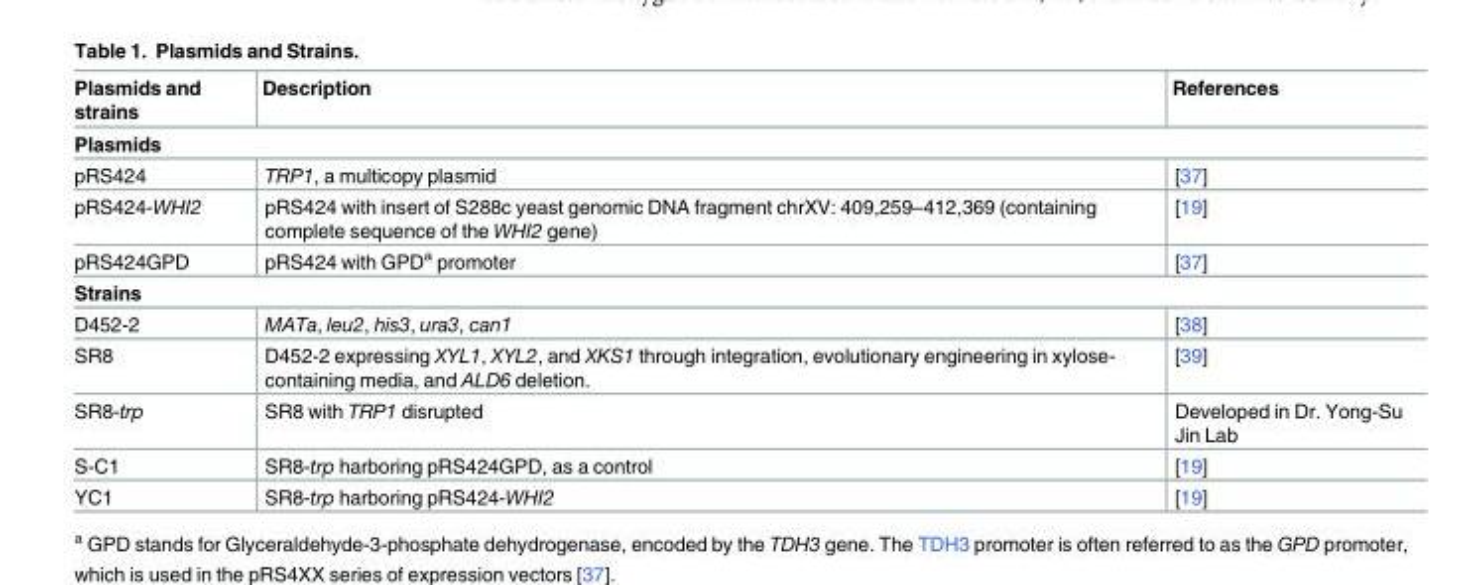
<table><thead><tr><td>Plasmids and strains</td><td>Description</td><td>References</td></tr></thead><tbody><tr><td colspan="3">Plasmids</td></tr><tr><td>pRS424</td><td>TRP1, a multicopy plasmid</td><td>[37]</td></tr><tr><td>pRS424-WHI2</td><td>pRS424 with insert of S288c yeast genomic DNA fragment chrXV: 409,259–412,369 (containing complete sequence of the WHI2 gene)</td><td>[19]</td></tr><tr><td>pRS424GPD</td><td>pRS424 with GPD<sup>a</sup> promoter</td><td>[37]</td></tr><tr><td colspan="3">Strains</td></tr><tr><td>D452-2</td><td>MATa, leu2, his3, ura3, can1</td><td>[38]</td></tr><tr><td>SR8</td><td>D452-2 expressing XYL1, XYL2, and XKS1 through integration, evolutionary engineering in xylose- containing media, and ALD6 deletion.</td><td>[39]</td></tr><tr><td>SR8-trp</td><td>SR8 with TRP1 disrupted</td><td>Developed in Dr. Yong-Su Jin Lab</td></tr><tr><td>S-C1</td><td>SR8-trp harboring pRS424GPD, as a control</td><td>[19]</td></tr><tr><td>YC1</td><td>SR8-trp harboring pRS424-WHI2</td><td>[19]</td></tr></tbody></table>